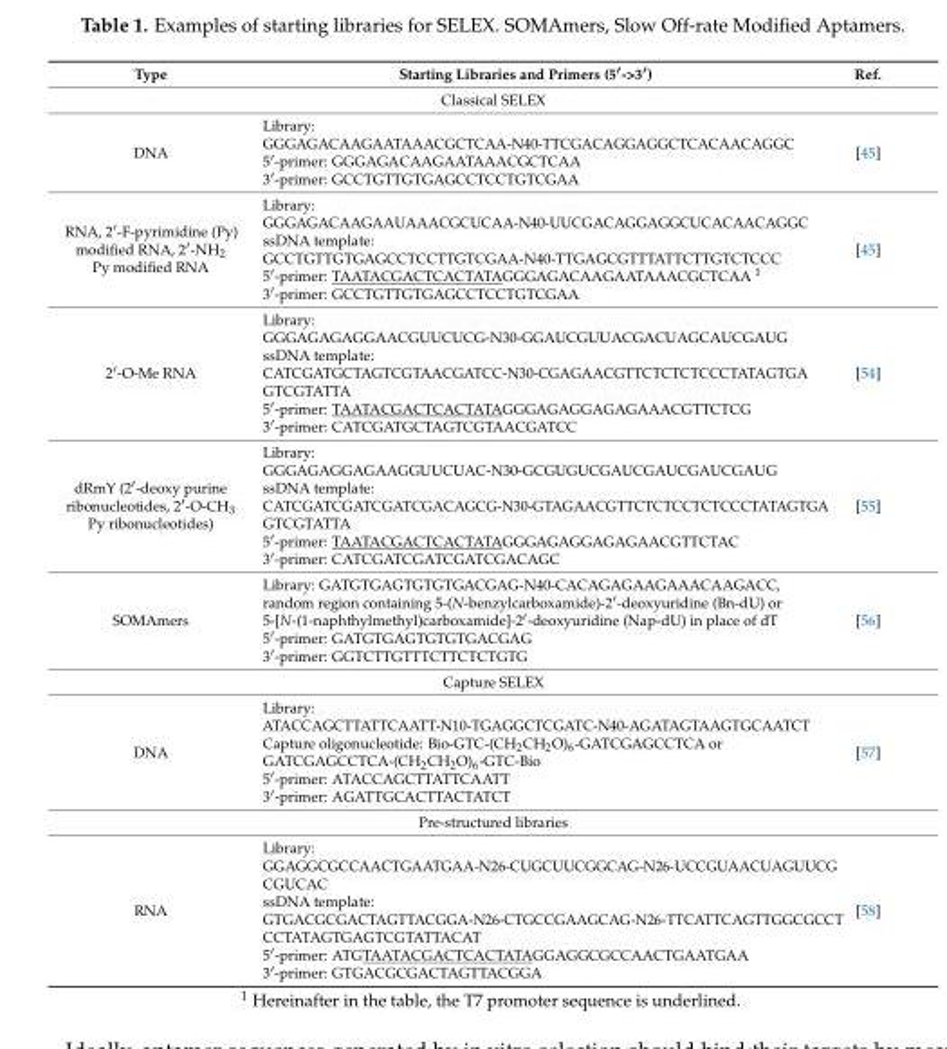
<table><thead><tr><td>Type</td><td>Starting Libraries and Primers (5′-&gt;3′)</td><td>Ref.</td></tr></thead><tbody><tr><td colspan="3">Classical SELEX</td></tr><tr><td>DNA</td><td>Library: GGGAGACAAGAATAAACGCTCAA-N40-TTCGACAGGAGGCTCACAACAGGC 5′-primer: GGGAGACAAGAATAAACGCTCAA 3′-primer: GCCTGTTGTGAGCCTCCTGTCGAA</td><td>[45]</td></tr><tr><td>RNA, 2′-F-pyrimidine (Py) modified RNA, 2′-NH<sub>2</sub> Py modified RNA</td><td>Library: GGGAGACAAGAAUAAACGCUCAA-N40-UUCGACAGGAGGCUCACAACAGGC ssDNA template: GCCTGTTGTGAGCCTCCTTGTCGAA-N40-TTGAGCGTTTATTCTTGTCTCCC 5′-primer: TAATACGACTCACTATAGGGAGACAAGAATAAACGCTCAA <sup>1</sup> 3′-primer: GCCTGTTGTGAGCCTCCTGTCGAA</td><td>[45]</td></tr><tr><td>2′-O-Me RNA</td><td>Library: GGGAGAGAGGAACGUUCUCG-N30-GGAUCGUUACGACUAGCAUCGAUG ssDNA template: CATCGATGCTAGTCGTAACGATCC-N30-CGAGAACGTTCTCTCTCCCTATAGTGA GTCGTATTA 5′-primer: TAATACGACTCACTATAGGGAGAGGAGAGAAACGTTCTCG 3′-primer: CATCGATGCTAGTCGTAACGATCC</td><td>[54]</td></tr><tr><td>dRmY (2′-deoxy purine ribonucleotides, 2′-O-CH<sub>3</sub> Py ribonucleotides)</td><td>Library: GGGAGAGGAGAAGGUUCUAC-N30-GCGUGUCGAUCGAUCGAUCGAUG ssDNA template: CATCGATCGATCGATCGACAGCG-N30-GTAGAACGTTCTCTCCTCTCCCTATAGTGA GTCGTATTA 5′-primer: TAATACGACTCACTATAGGGAGAGGAGAGAACGTTCTAC 3′-primer: CATCGATCGATCGATCGACAGC</td><td>[55]</td></tr><tr><td>SOMAmers</td><td>Library: GATGTGAGTGTGTGACGAG-N40-CACAGAGAAGAAACAAGACC, random region containing 5-(N-benzylcarboxamide)-2′-deoxyuridine (Bn-dU) or 5-[N-(1-naphthylmethyl)carboxamide]-2′-deoxyuridine (Nap-dU) in place of dT 5′-primer: GATGTGAGTGTGTGACGAG 3′-primer: GGTCTTGTTTCTTCTCTGTG</td><td>[56]</td></tr><tr><td colspan="3">Capture SELEX</td></tr><tr><td>DNA</td><td>Library: ATACCAGCTTATTCAATT-N10-TGAGGCTCGATC-N40-AGATAGTAAGTGCAATCT Capture oligonucleotide: Bio-GTC-(CH<sub>2</sub>CH<sub>2</sub>O)<sub>6</sub>-GATCGAGCCTCA or GATCGAGCCTCA-(CH<sub>2</sub>CH<sub>2</sub>O)<sub>6</sub>-GTC-Bio 5′-primer: ATACCAGCTTATTCAATT 3′-primer: AGATTGCACTTACTATCT</td><td>[57]</td></tr><tr><td colspan="3">Pre-structured libraries</td></tr><tr><td>RNA</td><td>Library: GGAGGCGCCAACTGAATGAA-N26-CUGCUUCGGCAG-N26-UCCGUAACUAGUUCG CGUCAC ssDNA template: GTGACGCGACTAGTTACGGA-N26-CTGCCGAAGCAG-N26-TTCATTCAGTTGGCGCCT CCTATAGTGAGTCGTATTACAT 5′-primer: ATGTAATACGACTCACTATAGGAGGCGCCAACTGAATGAA 3′-primer: GTGACGCGACTAGTTACGGA</td><td>[58]</td></tr></tbody></table>